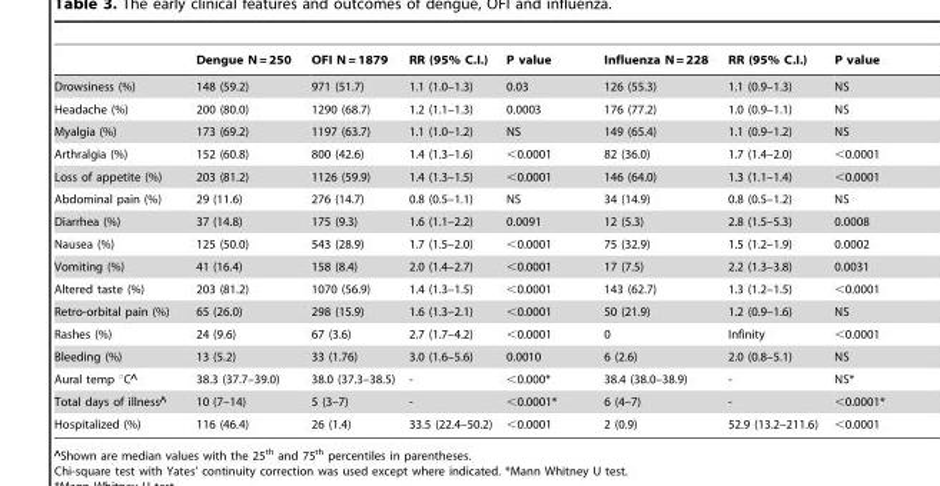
<table><thead><tr><td></td><td>Dengue N = 250</td><td>OFI N = 1879</td><td>RR (95% C.I.)</td><td>P value</td><td>Influenza N = 228</td><td>RR (95% C.I.)</td><td>P value</td></tr></thead><tbody><tr><td>Drowsiness (%)</td><td>148 (59.2)</td><td>971 (51.7)</td><td>1.1 (1.0–1.3)</td><td>0.03</td><td>126 (55.3)</td><td>1.1 (0.9–1.3)</td><td>NS</td></tr><tr><td>Headache (%)</td><td>200 (80.0)</td><td>1290 (68.7)</td><td>1.2 (1.1–1.3)</td><td>0.0003</td><td>176 (77.2)</td><td>1.0 (0.9–1.1)</td><td>NS</td></tr><tr><td>Myalgia (%)</td><td>173 (69.2)</td><td>1197 (63.7)</td><td>1.1 (1.0–1.2)</td><td>NS</td><td>149 (65.4)</td><td>1.1 (0.9–1.2)</td><td>NS</td></tr><tr><td>Arthralgia (%)</td><td>152 (60.8)</td><td>800 (42.6)</td><td>1.4 (1.3–1.6)</td><td>&lt;0.0001</td><td>82 (36.0)</td><td>1.7 (1.4–2.0)</td><td>&lt;0.0001</td></tr><tr><td>Loss of appetite (%)</td><td>203 (81.2)</td><td>1126 (59.9)</td><td>1.4 (1.3–1.5)</td><td>&lt;0.0001</td><td>146 (64.0)</td><td>1.3 (1.1–1.4)</td><td>&lt;0.0001</td></tr><tr><td>Abdominal pain (%)</td><td>29 (11.6)</td><td>276 (14.7)</td><td>0.8 (0.5–1.1)</td><td>NS</td><td>34 (14.9)</td><td>0.8 (0.5–1.2)</td><td>NS</td></tr><tr><td>Diarrhea (%)</td><td>37 (14.8)</td><td>175 (9.3)</td><td>1.6 (1.1–2.2)</td><td>0.0091</td><td>12 (5.3)</td><td>2.8 (1.5–5.3)</td><td>0.0008</td></tr><tr><td>Nausea (%)</td><td>125 (50.0)</td><td>543 (28.9)</td><td>1.7 (1.5–2.0)</td><td>&lt;0.0001</td><td>75 (32.9)</td><td>1.5 (1.2–1.9)</td><td>0.0002</td></tr><tr><td>Vomiting (%)</td><td>41 (16.4)</td><td>158 (8.4)</td><td>2.0 (1.4–2.7)</td><td>&lt;0.0001</td><td>17 (7.5)</td><td>2.2 (1.3–3.8)</td><td>0.0031</td></tr><tr><td>Altered taste (%)</td><td>203 (81.2)</td><td>1070 (56.9)</td><td>1.4 (1.3–1.5)</td><td>&lt;0.0001</td><td>143 (62.7)</td><td>1.3 (1.2–1.5)</td><td>&lt;0.0001</td></tr><tr><td>Retro-orbital pain (%)</td><td>65 (26.0)</td><td>298 (15.9)</td><td>1.6 (1.3–2.1)</td><td>&lt;0.0001</td><td>50 (21.9)</td><td>1.2 (0.9–1.6)</td><td>NS</td></tr><tr><td>Rashes (%)</td><td>24 (9.6)</td><td>67 (3.6)</td><td>2.7 (1.7–4.2)</td><td>&lt;0.0001</td><td>0</td><td>Infinity</td><td>&lt;0.0001</td></tr><tr><td>Bleeding (%)</td><td>13 (5.2)</td><td>33 (1.76)</td><td>3.0 (1.6–5.6)</td><td>0.0010</td><td>6 (2.6)</td><td>2.0 (0.8–5.1)</td><td>NS</td></tr><tr><td>Aural temp uC‘</td><td>38.3 (37.7–39.0)</td><td>38.0 (37.3–38.5)</td><td>-</td><td>&lt;0.000*</td><td>38.4 (38.0–38.9)</td><td>-</td><td>NS*</td></tr><tr><td>Total days of illness‘</td><td>10 (7–14)</td><td>5 (3–7)</td><td>-</td><td>&lt;0.0001*</td><td>6 (4–7)</td><td>-</td><td>&lt;0.0001*</td></tr><tr><td>Hospitalized (%)</td><td>116 (46.4)</td><td>26 (1.4)</td><td>33.5 (22.4–50.2)</td><td>&lt;0.0001</td><td>2 (0.9)</td><td>52.9 (13.2–211.6)</td><td>&lt;0.0001</td></tr></tbody></table>